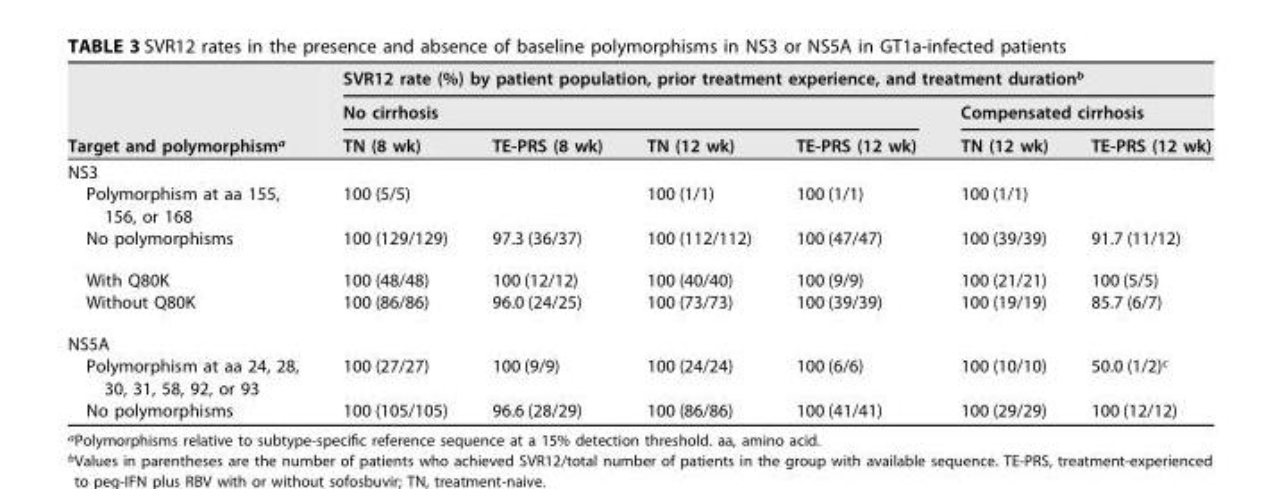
<table><thead><tr><td rowspan="3">Target and polymorphism<sup>a</sup></td><td colspan="6">SVR12 rate (%) by patient population, prior treatment experience, and treatment duration<sup>b</sup></td></tr><tr><td colspan="4">No cirrhosis</td><td colspan="2">Compensated cirrhosis</td></tr><tr><td>TN (8 wk)</td><td>TE-PRS (8 wk)</td><td>TN (12 wk)</td><td>TE-PRS (12 wk)</td><td>TN (12 wk)</td><td>TE-PRS (12 wk)</td></tr></thead><tbody><tr><td colspan="7">NS3</td></tr><tr><td>Polymorphism at aa 155, 156, or 168</td><td>100 (5/5)</td><td></td><td>100 (1/1)</td><td>100 (1/1)</td><td>100 (1/1)</td><td></td></tr><tr><td>No polymorphisms</td><td>100 (129/129)</td><td>97.3 (36/37)</td><td>100 (112/112)</td><td>100 (47/47)</td><td>100 (39/39)</td><td>91.7 (11/12)</td></tr><tr><td>With Q80K</td><td>100 (48/48)</td><td>100 (12/12)</td><td>100 (40/40)</td><td>100 (9/9)</td><td>100 (21/21)</td><td>100 (5/5)</td></tr><tr><td>Without Q80K</td><td>100 (86/86)</td><td>96.0 (24/25)</td><td>100 (73/73)</td><td>100 (39/39)</td><td>100 (19/19)</td><td>85.7 (6/7)</td></tr><tr><td colspan="7">NS5A</td></tr><tr><td>Polymorphism at aa 24, 28, 30, 31, 58, 92, or 93</td><td>100 (27/27)</td><td>100 (9/9)</td><td>100 (24/24)</td><td>100 (6/6)</td><td>100 (10/10)</td><td>50.0 (1/2)<sup>c</sup></td></tr><tr><td>No polymorphisms</td><td>100 (105/105)</td><td>96.6 (28/29)</td><td>100 (86/86)</td><td>100 (41/41)</td><td>100 (29/29)</td><td>100 (12/12)</td></tr></tbody></table>